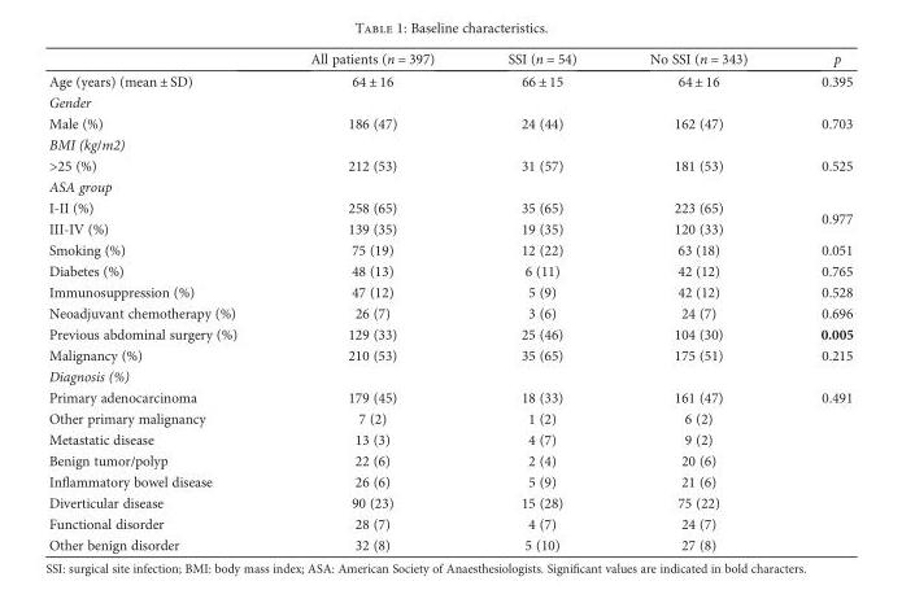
<table><thead><tr><td></td><td>All patients (n = 397)</td><td>SSI (n = 54)</td><td>No SSI (n = 343)</td><td>p</td></tr></thead><tbody><tr><td>Age (years) (mean ± SD)</td><td>64 ± 16</td><td>66 ± 15</td><td>64 ± 16</td><td>0.395</td></tr><tr><td colspan="5">Gender</td></tr><tr><td>Male (%)</td><td>186 (47)</td><td>24 (44)</td><td>162 (47)</td><td>0.703</td></tr><tr><td colspan="5">BMI (kg/m2)</td></tr><tr><td>&gt;25 (%)</td><td>212 (53)</td><td>31 (57)</td><td>181 (53)</td><td>0.525</td></tr><tr><td colspan="5">ASA group</td></tr><tr><td>I-II (%)</td><td>258 (65)</td><td>35 (65)</td><td>223 (65)</td><td rowspan="2">0.977</td></tr><tr><td>III-IV (%)</td><td>139 (35)</td><td>19 (35)</td><td>120 (33)</td></tr><tr><td>Smoking (%)</td><td>75 (19)</td><td>12 (22)</td><td>63 (18)</td><td>0.051</td></tr><tr><td>Diabetes (%)</td><td>48 (13)</td><td>6 (11)</td><td>42 (12)</td><td>0.765</td></tr><tr><td>Immunosuppression (%)</td><td>47 (12)</td><td>5 (9)</td><td>42 (12)</td><td>0.528</td></tr><tr><td>Neoadjuvant chemotherapy (%)</td><td>26 (7)</td><td>3 (6)</td><td>24 (7)</td><td>0.696</td></tr><tr><td>Previous abdominal surgery (%)</td><td>129 (33)</td><td>25 (46)</td><td>104 (30)</td><td>0.005</td></tr><tr><td>Malignancy (%)</td><td>210 (53)</td><td>35 (65)</td><td>175 (51)</td><td>0.215</td></tr><tr><td colspan="5">Diagnosis (%)</td></tr><tr><td>Primary adenocarcinoma</td><td>179 (45)</td><td>18 (33)</td><td>161 (47)</td><td>0.491</td></tr><tr><td>Other primary malignancy</td><td>7 (2)</td><td>1 (2)</td><td>6 (2)</td><td></td></tr><tr><td>Metastatic disease</td><td>13 (3)</td><td>4 (7)</td><td>9 (2)</td><td></td></tr><tr><td>Benign tumor/polyp</td><td>22 (6)</td><td>2 (4)</td><td>20 (6)</td><td></td></tr><tr><td>Inflammatory bowel disease</td><td>26 (6)</td><td>5 (9)</td><td>21 (6)</td><td></td></tr><tr><td>Diverticular disease</td><td>90 (23)</td><td>15 (28)</td><td>75 (22)</td><td></td></tr><tr><td>Functional disorder</td><td>28 (7)</td><td>4 (7)</td><td>24 (7)</td><td></td></tr><tr><td>Other benign disorder</td><td>32 (8)</td><td>5 (10)</td><td>27 (8)</td><td></td></tr></tbody></table>